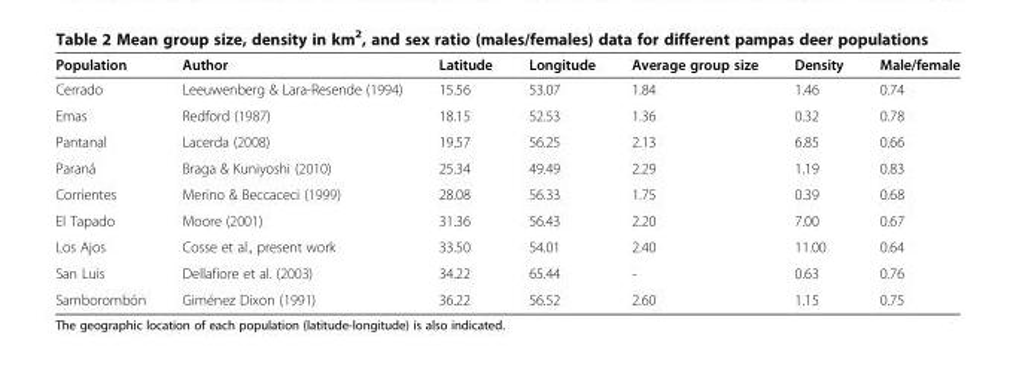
<table><thead><tr><td>Population</td><td>Author</td><td>Latitude</td><td>Longitude</td><td>Average group size</td><td>Density</td><td>Male/female</td></tr></thead><tbody><tr><td>Cerrado</td><td>Leeuwenberg &amp; Lara-Resende (1994)</td><td>15.56</td><td>53.07</td><td>1.84</td><td>1.46</td><td>0.74</td></tr><tr><td>Emas</td><td>Redford (1987)</td><td>18.15</td><td>52.53</td><td>1.36</td><td>0.32</td><td>0.78</td></tr><tr><td>Pantanal</td><td>Lacerda (2008)</td><td>19.57</td><td>56.25</td><td>2.13</td><td>6.85</td><td>0.66</td></tr><tr><td>Paraná</td><td>Braga &amp; Kuniyoshi (2010)</td><td>25.34</td><td>49.49</td><td>2.29</td><td>1.19</td><td>0.83</td></tr><tr><td>Corrientes</td><td>Merino &amp; Beccaceci (1999)</td><td>28.08</td><td>56.33</td><td>1.75</td><td>0.39</td><td>0.68</td></tr><tr><td>El Tapado</td><td>Moore (2001)</td><td>31.36</td><td>56.43</td><td>2.20</td><td>7.00</td><td>0.67</td></tr><tr><td>Los Ajos</td><td>Cosse et al., present work</td><td>33.50</td><td>54.01</td><td>2.40</td><td>11.00</td><td>0.64</td></tr><tr><td>San Luis</td><td>Dellafiore et al. (2003)</td><td>34.22</td><td>65.44</td><td>-</td><td>0.63</td><td>0.76</td></tr><tr><td>Samborombón</td><td>Giménez Dixon (1991)</td><td>36.22</td><td>56.52</td><td>2.60</td><td>1.15</td><td>0.75</td></tr></tbody></table>